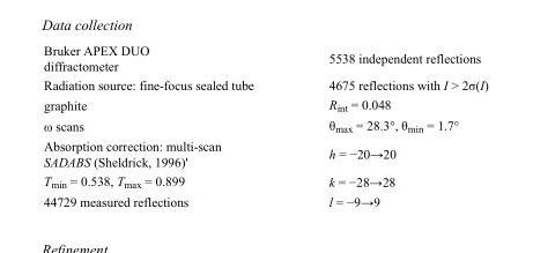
<table><tbody><tr><td>Bruker APEX DUO diffractometer</td><td>5538 independent reflections</td></tr><tr><td>Radiation source: fine-focus sealed tube</td><td>4675 reflections with I &gt; 2σ(I)</td></tr><tr><td>graphite</td><td>R<sub>int</sub> = 0.048</td></tr><tr><td>ω scans</td><td>θ<sub>max</sub> = 28.3°, θ<sub>min</sub> = 1.7°</td></tr><tr><td>Absorption correction: multi-scan SADABS (Sheldrick, 1996)&#x27;</td><td>h = −20→20</td></tr><tr><td>T<sub>min</sub> = 0.538, T<sub>max</sub> = 0.899</td><td>k = −28→28</td></tr><tr><td>44729 measured reflections</td><td>l = −9→9</td></tr></tbody></table>